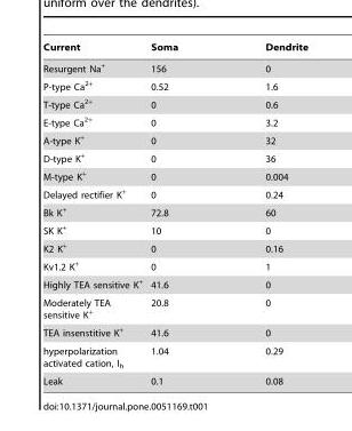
<table><thead><tr><td>Current</td><td>Soma</td><td>Dendrite</td></tr></thead><tbody><tr><td>Resurgent Na<sup>+</sup></td><td>156</td><td>0</td></tr><tr><td>P-type Ca<sup>2+</sup></td><td>0.52</td><td>1.6</td></tr><tr><td>T-type Ca<sup>2+</sup></td><td>0</td><td>0.6</td></tr><tr><td>E-type Ca<sup>2+</sup></td><td>0</td><td>3.2</td></tr><tr><td>A-type K<sup>+</sup></td><td>0</td><td>32</td></tr><tr><td>D-type K<sup>+</sup></td><td>0</td><td>36</td></tr><tr><td>M-type K<sup>+</sup></td><td>0</td><td>0.004</td></tr><tr><td>Delayed rectifier K<sup>+</sup></td><td>0</td><td>0.24</td></tr><tr><td>Bk K<sup>+</sup></td><td>72.8</td><td>60</td></tr><tr><td>SK K<sup>+</sup></td><td>10</td><td>0</td></tr><tr><td>K2 K<sup>+</sup></td><td>0</td><td>0.16</td></tr><tr><td>Kv1.2 K<sup>+</sup></td><td>0</td><td>1</td></tr><tr><td>Highly TEA sensitive K<sup>+</sup></td><td>41.6</td><td>0</td></tr><tr><td>Moderately TEA sensitive K<sup>+</sup></td><td>20.8</td><td>0</td></tr><tr><td>TEA insenstitive K<sup>+</sup></td><td>41.6</td><td>0</td></tr><tr><td>hyperpolarization activated cation, I<sub>h</sub></td><td>1.04</td><td>0.29</td></tr><tr><td>Leak</td><td>0.1</td><td>0.08</td></tr></tbody></table>